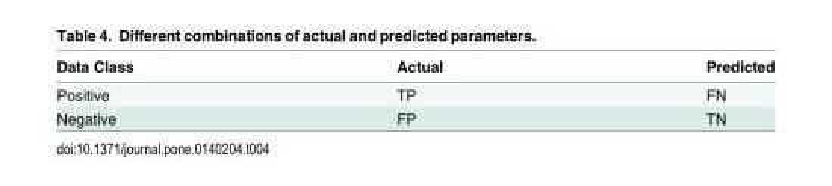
<table><thead><tr><td>Data Class</td><td>Actual</td><td>Predicted</td></tr></thead><tbody><tr><td>Positive</td><td>TP</td><td>FN</td></tr><tr><td>Negative</td><td>FP</td><td>TN</td></tr></tbody></table>